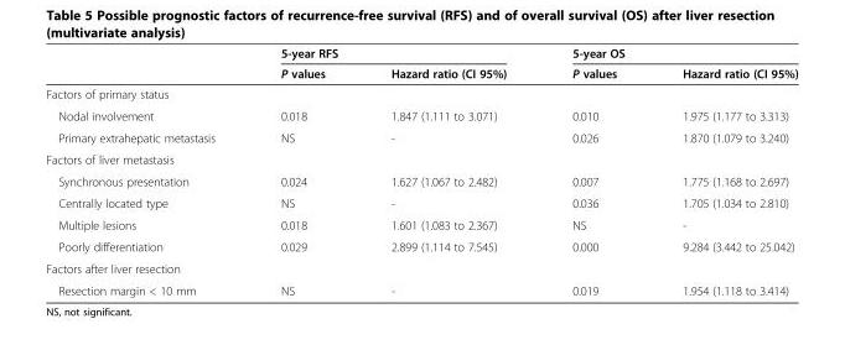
<table><thead><tr><td rowspan="2"></td><td colspan="2">5-year RFS</td><td colspan="2">5-year OS</td></tr><tr><td>P values</td><td>Hazard ratio (CI 95%)</td><td>P values</td><td>Hazard ratio (CI 95%)</td></tr></thead><tbody><tr><td colspan="5">Factors of primary status</td></tr><tr><td>Nodal involvement</td><td>0.018</td><td>1.847 (1.111 to 3.071)</td><td>0.010</td><td>1.975 (1.177 to 3.313)</td></tr><tr><td>Primary extrahepatic metastasis</td><td>NS</td><td>-</td><td>0.026</td><td>1.870 (1.079 to 3.240)</td></tr><tr><td colspan="5">Factors of liver metastasis</td></tr><tr><td>Synchronous presentation</td><td>0.024</td><td>1.627 (1.067 to 2.482)</td><td>0.007</td><td>1.775 (1.168 to 2.697)</td></tr><tr><td>Centrally located type</td><td>NS</td><td>-</td><td>0.036</td><td>1.705 (1.034 to 2.810)</td></tr><tr><td>Multiple lesions</td><td>0.018</td><td>1.601 (1.083 to 2.367)</td><td>NS</td><td>-</td></tr><tr><td>Poorly differentiation</td><td>0.029</td><td>2.899 (1.114 to 7.545)</td><td>0.000</td><td>9.284 (3.442 to 25.042)</td></tr><tr><td colspan="5">Factors after liver resection</td></tr><tr><td>Resection margin &lt; 10 mm</td><td>NS</td><td>-</td><td>0.019</td><td>1.954 (1.118 to 3.414)</td></tr></tbody></table>